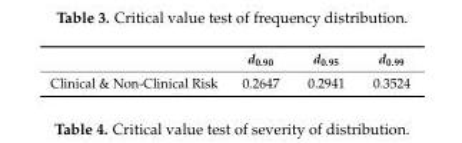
<table><thead><tr><td></td><td>d<sub>0.90</sub></td><td>d<sub>0.95</sub></td><td>d<sub>0.99</sub></td></tr></thead><tbody><tr><td>Clinical &amp; Non-Clinical Risk</td><td>0.2647</td><td>0.2941</td><td>0.3524</td></tr></tbody></table>